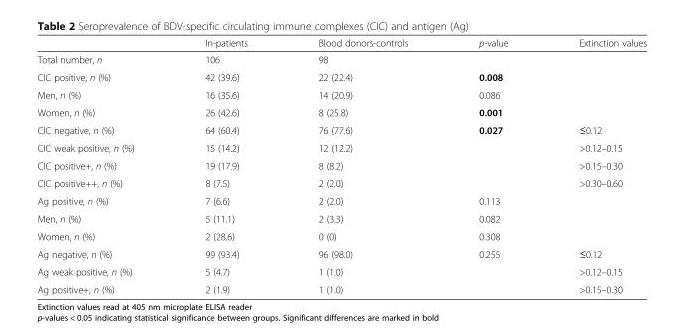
<table><thead><tr><td></td><td>In-patients</td><td>Blood donors-controls</td><td>p-value</td><td>Extinction values</td></tr></thead><tbody><tr><td>Total number, n</td><td>106</td><td>98</td><td></td><td></td></tr><tr><td>CIC positive, n (%)</td><td>42 (39.6)</td><td>22 (22.4)</td><td>0.008</td><td></td></tr><tr><td>Men, n (%)</td><td>16 (35.6)</td><td>14 (20.9)</td><td>0.086</td><td></td></tr><tr><td>Women, n (%)</td><td>26 (42.6)</td><td>8 (25.8)</td><td>0.001</td><td></td></tr><tr><td>CIC negative, n (%)</td><td>64 (60.4)</td><td>76 (77.6)</td><td>0.027</td><td>≤0.12</td></tr><tr><td>CIC weak positive, n (%)</td><td>15 (14.2)</td><td>12 (12.2)</td><td></td><td>&gt;0.12–0.15</td></tr><tr><td>CIC positive+, n (%)</td><td>19 (17.9)</td><td>8 (8.2)</td><td></td><td>&gt;0.15–0.30</td></tr><tr><td>CIC positive++, n (%)</td><td>8 (7.5)</td><td>2 (2.0)</td><td></td><td>&gt;0.30–0.60</td></tr><tr><td>Ag positive, n (%)</td><td>7 (6.6)</td><td>2 (2.0)</td><td>0.113</td><td></td></tr><tr><td>Men, n (%)</td><td>5 (11.1)</td><td>2 (3.3)</td><td>0.082</td><td></td></tr><tr><td>Women, n (%)</td><td>2 (28.6)</td><td>0 (0)</td><td>0.308</td><td></td></tr><tr><td>Ag negative, n (%)</td><td>99 (93.4)</td><td>96 (98.0)</td><td>0.255</td><td>≤0.12</td></tr><tr><td>Ag weak positive, n (%)</td><td>5 (4.7)</td><td>1 (1.0)</td><td></td><td>&gt;0.12–0.15</td></tr><tr><td>Ag positive+, n (%)</td><td>2 (1.9)</td><td>1 (1.0)</td><td></td><td>&gt;0.15–0.30</td></tr></tbody></table>